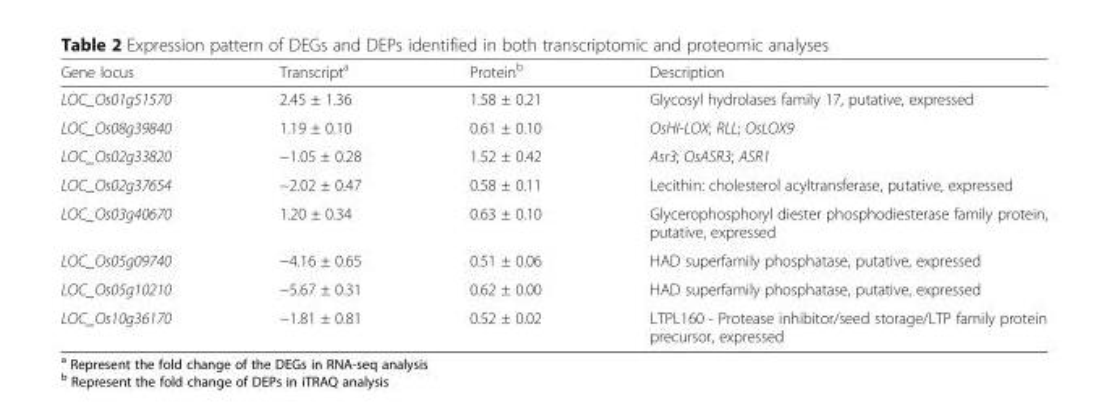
<table><thead><tr><td>Gene locus</td><td>Transcript<sup>a</sup></td><td>Protein<sup>b</sup></td><td>Description</td></tr></thead><tbody><tr><td>LOC_Os01g51570</td><td>2.45 ± 1.36</td><td>1.58 ± 0.21</td><td>Glycosyl hydrolases family 17, putative, expressed</td></tr><tr><td>LOC_Os08g39840</td><td>1.19 ± 0.10</td><td>0.61 ± 0.10</td><td>OsHI-LOX; RLL; OsLOX9</td></tr><tr><td>LOC_Os02g33820</td><td>−1.05 ± 0.28</td><td>1.52 ± 0.42</td><td>Asr3; OsASR3; ASR1</td></tr><tr><td>LOC_Os02g37654</td><td>−2.02 ± 0.47</td><td>0.58 ± 0.11</td><td>Lecithin: cholesterol acyltransferase, putative, expressed</td></tr><tr><td>LOC_Os03g40670</td><td>1.20 ± 0.34</td><td>0.63 ± 0.10</td><td>Glycerophosphoryl diester phosphodiesterase family protein, putative, expressed</td></tr><tr><td>LOC_Os05g09740</td><td>−4.16 ± 0.65</td><td>0.51 ± 0.06</td><td>HAD superfamily phosphatase, putative, expressed</td></tr><tr><td>LOC_Os05g10210</td><td>−5.67 ± 0.31</td><td>0.62 ± 0.00</td><td>HAD superfamily phosphatase, putative, expressed</td></tr><tr><td>LOC_Os10g36170</td><td>−1.81 ± 0.81</td><td>0.52 ± 0.02</td><td>LTPL160 - Protease inhibitor/seed storage/LTP family protein precursor, expressed</td></tr></tbody></table>